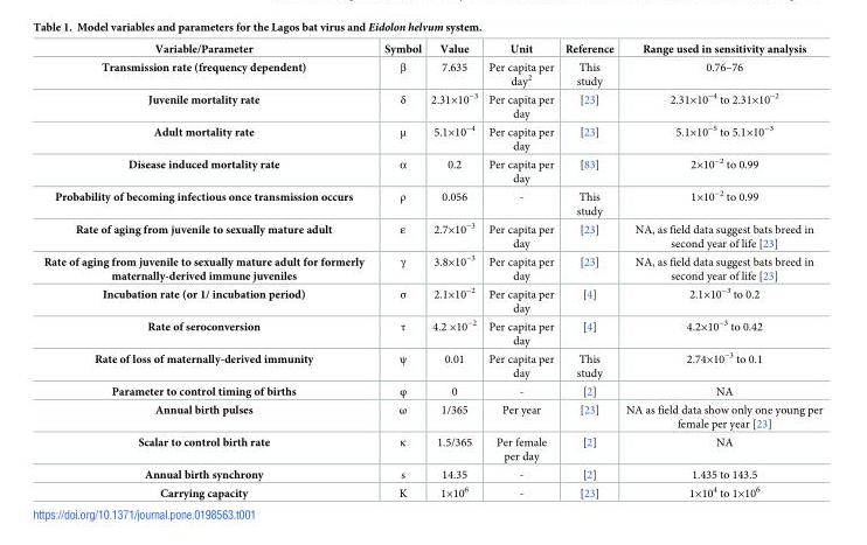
<table><thead><tr><td>Variable/Parameter</td><td>Symbol</td><td>Value</td><td>Unit</td><td>Reference</td><td>Range used in sensitivity analysis</td></tr></thead><tbody><tr><td>Transmission rate (frequency dependent)</td><td>β</td><td>7.635</td><td>Per capita per day<sup>2</sup></td><td>This study</td><td>0.76–76</td></tr><tr><td>Juvenile mortality rate</td><td>δ</td><td>2.31×10<sup>−3</sup></td><td>Per capita per day</td><td>[23]</td><td>2.31×10<sup>−4</sup> to 2.31×10<sup>−2</sup></td></tr><tr><td>Adult mortality rate</td><td>μ</td><td>5.1×10<sup>−4</sup></td><td>Per capita per day</td><td>[23]</td><td>5.1×10<sup>−5</sup> to 5.1×10<sup>−3</sup></td></tr><tr><td>Disease induced mortality rate</td><td>α</td><td>0.2</td><td>Per capita per day</td><td>[83]</td><td>2×10<sup>−2</sup> to 0.99</td></tr><tr><td>Probability of becoming infectious once transmission occurs</td><td>ρ</td><td>0.056</td><td>-</td><td>This study</td><td>1×10<sup>−2</sup> to 0.99</td></tr><tr><td>Rate of aging from juvenile to sexually mature adult</td><td>ε</td><td>2.7×10<sup>−3</sup></td><td>Per capita per day</td><td>[23]</td><td>NA, as field data suggest bats breed in second year of life [23]</td></tr><tr><td>Rate of aging from juvenile to sexually mature adult for formerly maternally-derived immune juveniles</td><td>γ</td><td>3.8×10<sup>−3</sup></td><td>Per capita per day</td><td>[23]</td><td>NA, as field data suggest bats breed in second year of life [23]</td></tr><tr><td>Incubation rate (or 1/ incubation period)</td><td>σ</td><td>2.1×10<sup>−2</sup></td><td>Per capita per day</td><td>[4]</td><td>2.1×10<sup>−3</sup> to 0.2</td></tr><tr><td>Rate of seroconversion</td><td>τ</td><td>4.2 ×10<sup>−2</sup></td><td>Per capita per day</td><td>[4]</td><td>4.2×10<sup>−3</sup> to 0.42</td></tr><tr><td>Rate of loss of maternally-derived immunity</td><td>ψ</td><td>0.01</td><td>Per capita per day</td><td>This study</td><td>2.74×10<sup>−3</sup> to 0.1</td></tr><tr><td>Parameter to control timing of births</td><td>φ</td><td>0</td><td>-</td><td>[2]</td><td>NA</td></tr><tr><td>Annual birth pulses</td><td>ω</td><td>1/365</td><td>Per year</td><td>[23]</td><td>NA as field data show only one young per female per year [23]</td></tr><tr><td>Scalar to control birth rate</td><td>κ</td><td>1.5/365</td><td>Per female per day</td><td>[2]</td><td>NA</td></tr><tr><td>Annual birth synchrony</td><td>s</td><td>14.35</td><td>-</td><td>[2]</td><td>1.435 to 143.5</td></tr><tr><td>Carrying capacity</td><td>K</td><td>1×10<sup>6</sup></td><td>-</td><td>[23]</td><td>1×10<sup>4</sup> to 1×10<sup>6</sup></td></tr></tbody></table>